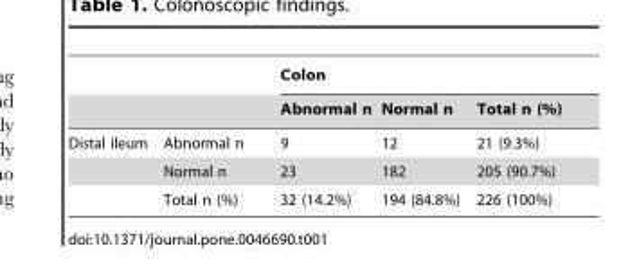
<table><thead><tr><td rowspan="2"></td><td rowspan="2"></td><td colspan="3">Colon</td></tr><tr><td>Abnormal n</td><td>Normal n</td><td>Total n (%)</td></tr></thead><tbody><tr><td rowspan="3">Distal ileum</td><td>Abnormal n</td><td>9</td><td>12</td><td>21 (9.3%)</td></tr><tr><td>Normal n</td><td>23</td><td>182</td><td>205 (90.7%)</td></tr><tr><td>Total n (%)</td><td>32 (14.2%)</td><td>194 (84.8%)</td><td>226 (100%)</td></tr></tbody></table>